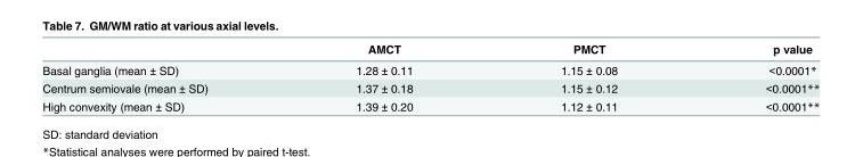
<table><thead><tr><td></td><td>AMCT</td><td>PMCT</td><td>p value</td></tr></thead><tbody><tr><td>Basal ganglia (mean ± SD)</td><td>1.28 ± 0.11</td><td>1.15 ± 0.08</td><td>&lt;0.0001*</td></tr><tr><td>Centrum semiovale (mean ± SD)</td><td>1.37 ± 0.18</td><td>1.15 ± 0.12</td><td>&lt;0.0001**</td></tr><tr><td>High convexity (mean ± SD)</td><td>1.39 ± 0.20</td><td>1.12 ± 0.11</td><td>&lt;0.0001**</td></tr></tbody></table>